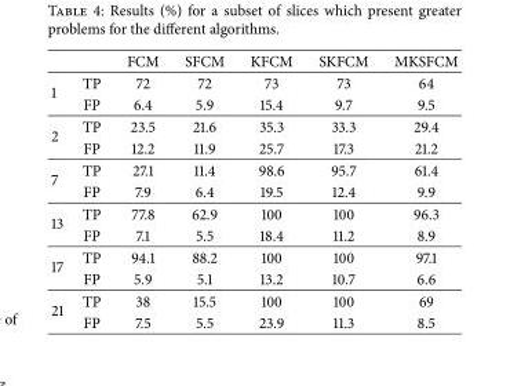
<table><thead><tr><td></td><td></td><td>FCM</td><td>SFCM</td><td>KFCM</td><td>SKFCM</td><td>MKSFCM</td></tr></thead><tbody><tr><td rowspan="2">1</td><td>TP</td><td>72</td><td>72</td><td>73</td><td>73</td><td>64</td></tr><tr><td>FP</td><td>6.4</td><td>5.9</td><td>15.4</td><td>9.7</td><td>9.5</td></tr><tr><td rowspan="2">2</td><td>TP</td><td>23.5</td><td>21.6</td><td>35.3</td><td>33.3</td><td>29.4</td></tr><tr><td>FP</td><td>12.2</td><td>11.9</td><td>25.7</td><td>17.3</td><td>21.2</td></tr><tr><td rowspan="2">7</td><td>TP</td><td>27.1</td><td>11.4</td><td>98.6</td><td>95.7</td><td>61.4</td></tr><tr><td>FP</td><td>7.9</td><td>6.4</td><td>19.5</td><td>12.4</td><td>9.9</td></tr><tr><td rowspan="2">13</td><td>TP</td><td>77.8</td><td>62.9</td><td>100</td><td>100</td><td>96.3</td></tr><tr><td>FP</td><td>7.1</td><td>5.5</td><td>18.4</td><td>11.2</td><td>8.9</td></tr><tr><td rowspan="2">17</td><td>TP</td><td>94.1</td><td>88.2</td><td>100</td><td>100</td><td>97.1</td></tr><tr><td>FP</td><td>5.9</td><td>5.1</td><td>13.2</td><td>10.7</td><td>6.6</td></tr><tr><td rowspan="2">21</td><td>TP</td><td>38</td><td>15.5</td><td>100</td><td>100</td><td>69</td></tr><tr><td>FP</td><td>7.5</td><td>5.5</td><td>23.9</td><td>11.3</td><td>8.5</td></tr></tbody></table>